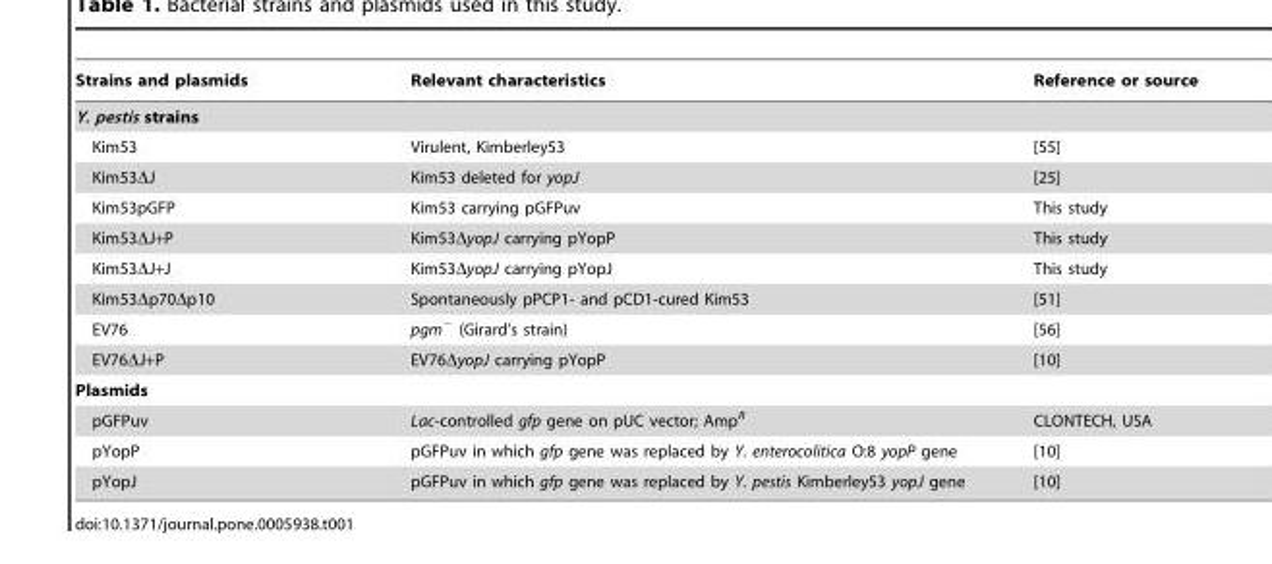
<table><thead><tr><td>Strains and plasmids</td><td>Relevant characteristics</td><td>Reference or source</td></tr></thead><tbody><tr><td colspan="3">Y. pestis strains</td></tr><tr><td>Kim53</td><td>Virulent, Kimberley53</td><td>[55]</td></tr><tr><td>Kim53ΔJ</td><td>Kim53 deleted for yopJ</td><td>[25]</td></tr><tr><td>Kim53pGFP</td><td>Kim53 carrying pGFPuv</td><td>This study</td></tr><tr><td>Kim53ΔJ+P</td><td>Kim53ΔyopJ carrying pYopP</td><td>This study</td></tr><tr><td>Kim53ΔJ+J</td><td>Kim53ΔyopJ carrying pYopJ</td><td>This study</td></tr><tr><td>Kim53Δp70Δp10</td><td>Spontaneously pPCP1- and pCD1-cured Kim53</td><td>[51]</td></tr><tr><td>EV76</td><td>pgm<sup>−</sup> (Girard’s strain)</td><td>[56]</td></tr><tr><td>EV76ΔJ+P</td><td>EV76ΔyopJ carrying pYopP</td><td>[10]</td></tr><tr><td colspan="3">Plasmids</td></tr><tr><td>pGFPuv</td><td>Lac-controlled gfp gene on pUC vector; Amp<sup>R</sup></td><td>CLONTECH, USA</td></tr><tr><td>pYopP</td><td>pGFPuv in which gfp gene was replaced by Y. enterocolitica O:8 yopP gene</td><td>[10]</td></tr><tr><td>pYopJ</td><td>pGFPuv in which gfp gene was replaced by Y. pestis Kimberley53 yopJ gene</td><td>[10]</td></tr></tbody></table>